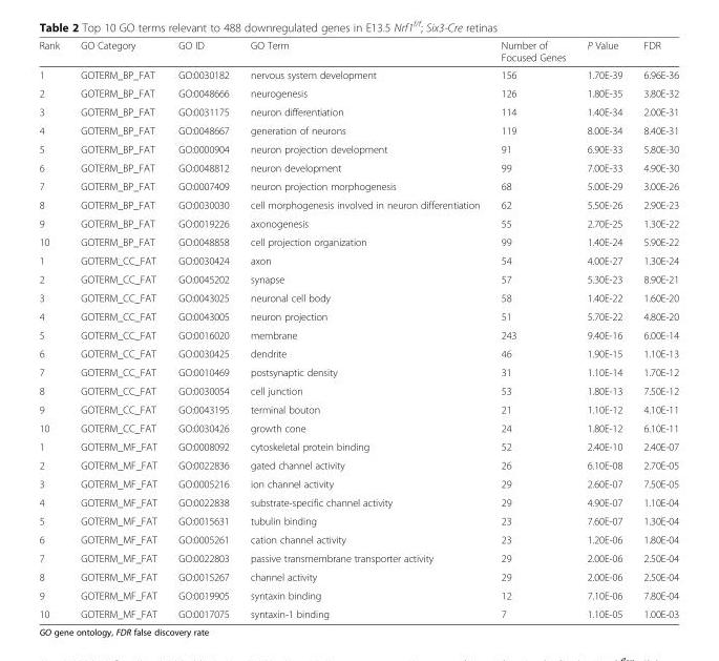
<table><thead><tr><td>Rank</td><td>GO Category</td><td>GO ID</td><td>GO Term</td><td>Number of Focused Genes</td><td>P Value</td><td>FDR</td></tr></thead><tbody><tr><td>1</td><td>GOTERM_BP_FAT</td><td>GO:0030182</td><td>nervous system development</td><td>156</td><td>1.70E-39</td><td>6.96E-36</td></tr><tr><td>2</td><td>GOTERM_BP_FAT</td><td>GO:0048666</td><td>neurogenesis</td><td>126</td><td>1.80E-35</td><td>3.80E-32</td></tr><tr><td>3</td><td>GOTERM_BP_FAT</td><td>GO:0031175</td><td>neuron differentiation</td><td>114</td><td>1.40E-34</td><td>2.00E-31</td></tr><tr><td>4</td><td>GOTERM_BP_FAT</td><td>GO:0048667</td><td>generation of neurons</td><td>119</td><td>8.00E-34</td><td>8.40E-31</td></tr><tr><td>5</td><td>GOTERM_BP_FAT</td><td>GO:0000904</td><td>neuron projection development</td><td>91</td><td>6.90E-33</td><td>5.80E-30</td></tr><tr><td>6</td><td>GOTERM_BP_FAT</td><td>GO:0048812</td><td>neuron development</td><td>99</td><td>7.00E-33</td><td>4.90E-30</td></tr><tr><td>7</td><td>GOTERM_BP_FAT</td><td>GO:0007409</td><td>neuron projection morphogenesis</td><td>68</td><td>5.00E-29</td><td>3.00E-26</td></tr><tr><td>8</td><td>GOTERM_BP_FAT</td><td>GO:0030030</td><td>cell morphogenesis involved in neuron differentiation</td><td>62</td><td>5.50E-26</td><td>2.90E-23</td></tr><tr><td>9</td><td>GOTERM_BP_FAT</td><td>GO:0019226</td><td>axonogenesis</td><td>55</td><td>2.70E-25</td><td>1.30E-22</td></tr><tr><td>10</td><td>GOTERM_BP_FAT</td><td>GO:0048858</td><td>cell projection organization</td><td>99</td><td>1.40E-24</td><td>5.90E-22</td></tr><tr><td>1</td><td>GOTERM_CC_FAT</td><td>GO:0030424</td><td>axon</td><td>54</td><td>4.00E-27</td><td>1.30E-24</td></tr><tr><td>2</td><td>GOTERM_CC_FAT</td><td>GO:0045202</td><td>synapse</td><td>57</td><td>5.30E-23</td><td>8.90E-21</td></tr><tr><td>3</td><td>GOTERM_CC_FAT</td><td>GO:0043025</td><td>neuronal cell body</td><td>58</td><td>1.40E-22</td><td>1.60E-20</td></tr><tr><td>4</td><td>GOTERM_CC_FAT</td><td>GO:0043005</td><td>neuron projection</td><td>51</td><td>5.70E-22</td><td>4.80E-20</td></tr><tr><td>5</td><td>GOTERM_CC_FAT</td><td>GO:0016020</td><td>membrane</td><td>243</td><td>9.40E-16</td><td>6.00E-14</td></tr><tr><td>6</td><td>GOTERM_CC_FAT</td><td>GO:0030425</td><td>dendrite</td><td>46</td><td>1.90E-15</td><td>1.10E-13</td></tr><tr><td>7</td><td>GOTERM_CC_FAT</td><td>GO:0010469</td><td>postsynaptic density</td><td>31</td><td>1.10E-14</td><td>1.70E-12</td></tr><tr><td>8</td><td>GOTERM_CC_FAT</td><td>GO:0030054</td><td>cell junction</td><td>53</td><td>1.80E-13</td><td>7.50E-12</td></tr><tr><td>9</td><td>GOTERM_CC_FAT</td><td>GO:0043195</td><td>terminal bouton</td><td>21</td><td>1.10E-12</td><td>4.10E-11</td></tr><tr><td>10</td><td>GOTERM_CC_FAT</td><td>GO:0030426</td><td>growth cone</td><td>24</td><td>1.80E-12</td><td>6.10E-11</td></tr><tr><td>1</td><td>GOTERM_MF_FAT</td><td>GO:0008092</td><td>cytoskeletal protein binding</td><td>52</td><td>2.40E-10</td><td>2.40E-07</td></tr><tr><td>2</td><td>GOTERM_MF_FAT</td><td>GO:0022836</td><td>gated channel activity</td><td>26</td><td>6.10E-08</td><td>2.70E-05</td></tr><tr><td>3</td><td>GOTERM_MF_FAT</td><td>GO:0005216</td><td>ion channel activity</td><td>29</td><td>2.60E-07</td><td>7.50E-05</td></tr><tr><td>4</td><td>GOTERM_MF_FAT</td><td>GO:0022838</td><td>substrate-specific channel activity</td><td>29</td><td>4.90E-07</td><td>1.10E-04</td></tr><tr><td>5</td><td>GOTERM_MF_FAT</td><td>GO:0015631</td><td>tubulin binding</td><td>23</td><td>7.60E-07</td><td>1.30E-04</td></tr><tr><td>6</td><td>GOTERM_MF_FAT</td><td>GO:0005261</td><td>cation channel activity</td><td>23</td><td>1.20E-06</td><td>1.80E-04</td></tr><tr><td>7</td><td>GOTERM_MF_FAT</td><td>GO:0022803</td><td>passive transmembrane transporter activity</td><td>29</td><td>2.00E-06</td><td>2.50E-04</td></tr><tr><td>8</td><td>GOTERM_MF_FAT</td><td>GO:0015267</td><td>channel activity</td><td>29</td><td>2.00E-06</td><td>2.50E-04</td></tr><tr><td>9</td><td>GOTERM_MF_FAT</td><td>GO:0019905</td><td>syntaxin binding</td><td>12</td><td>7.10E-06</td><td>7.80E-04</td></tr><tr><td>10</td><td>GOTERM_MF_FAT</td><td>GO:0017075</td><td>syntaxin-1 binding</td><td>7</td><td>1.10E-05</td><td>1.00E-03</td></tr></tbody></table>